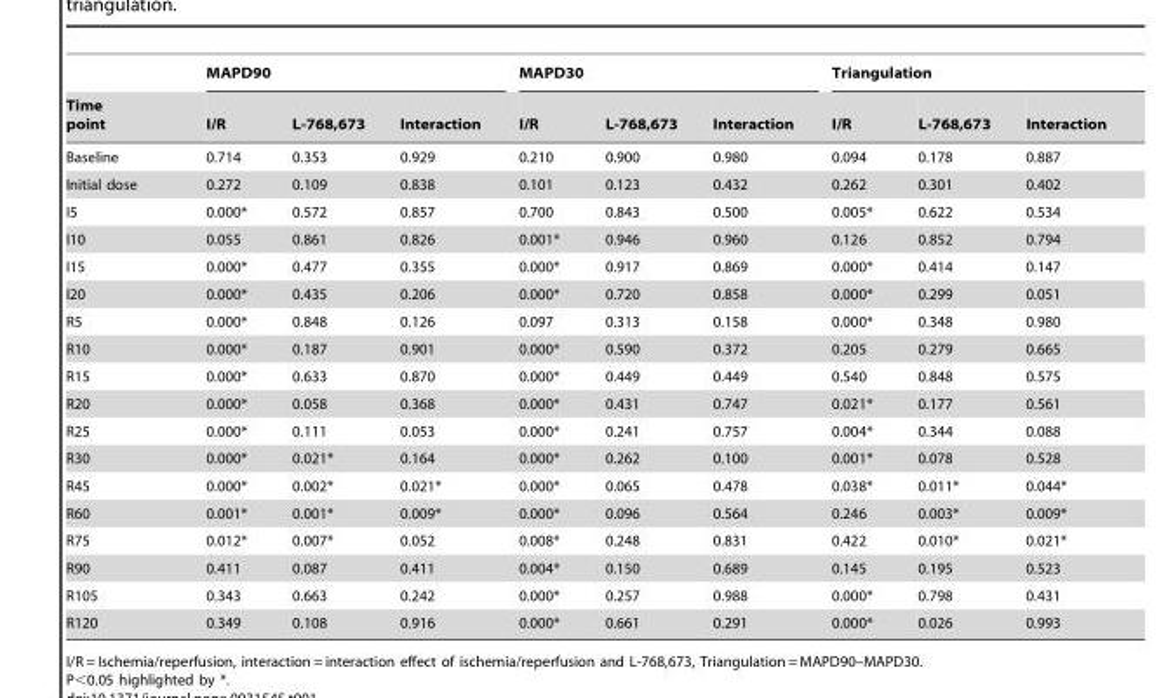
<table><thead><tr><td rowspan="2">Time point</td><td colspan="3">MAPD90</td><td colspan="3">MAPD30</td><td colspan="3">Triangulation</td></tr><tr><td>I/R</td><td>L-768,673</td><td>Interaction</td><td>I/R</td><td>L-768,673</td><td>Interaction</td><td>I/R</td><td>L-768,673</td><td>Interaction</td></tr></thead><tbody><tr><td>Baseline</td><td>0.714</td><td>0.353</td><td>0.929</td><td>0.210</td><td>0.900</td><td>0.980</td><td>0.094</td><td>0.178</td><td>0.887</td></tr><tr><td>Initial dose</td><td>0.272</td><td>0.109</td><td>0.838</td><td>0.101</td><td>0.123</td><td>0.432</td><td>0.262</td><td>0.301</td><td>0.402</td></tr><tr><td>I5</td><td>0.000*</td><td>0.572</td><td>0.857</td><td>0.700</td><td>0.843</td><td>0.500</td><td>0.005*</td><td>0.622</td><td>0.534</td></tr><tr><td>I10</td><td>0.055</td><td>0.861</td><td>0.826</td><td>0.001*</td><td>0.946</td><td>0.960</td><td>0.126</td><td>0.852</td><td>0.794</td></tr><tr><td>I15</td><td>0.000*</td><td>0.477</td><td>0.355</td><td>0.000*</td><td>0.917</td><td>0.869</td><td>0.000*</td><td>0.414</td><td>0.147</td></tr><tr><td>I20</td><td>0.000*</td><td>0.435</td><td>0.206</td><td>0.000*</td><td>0.720</td><td>0.858</td><td>0.000*</td><td>0.299</td><td>0.051</td></tr><tr><td>R5</td><td>0.000*</td><td>0.848</td><td>0.126</td><td>0.097</td><td>0.313</td><td>0.158</td><td>0.000*</td><td>0.348</td><td>0.980</td></tr><tr><td>R10</td><td>0.000*</td><td>0.187</td><td>0.901</td><td>0.000*</td><td>0.590</td><td>0.372</td><td>0.205</td><td>0.279</td><td>0.665</td></tr><tr><td>R15</td><td>0.000*</td><td>0.633</td><td>0.870</td><td>0.000*</td><td>0.449</td><td>0.449</td><td>0.540</td><td>0.848</td><td>0.575</td></tr><tr><td>R20</td><td>0.000*</td><td>0.058</td><td>0.368</td><td>0.000*</td><td>0.431</td><td>0.747</td><td>0.021*</td><td>0.177</td><td>0.561</td></tr><tr><td>R25</td><td>0.000*</td><td>0.111</td><td>0.053</td><td>0.000*</td><td>0.241</td><td>0.757</td><td>0.004*</td><td>0.344</td><td>0.088</td></tr><tr><td>R30</td><td>0.000*</td><td>0.021*</td><td>0.164</td><td>0.000*</td><td>0.262</td><td>0.100</td><td>0.001*</td><td>0.078</td><td>0.528</td></tr><tr><td>R45</td><td>0.000*</td><td>0.002*</td><td>0.021*</td><td>0.000*</td><td>0.065</td><td>0.478</td><td>0.038*</td><td>0.011*</td><td>0.044*</td></tr><tr><td>R60</td><td>0.001*</td><td>0.001*</td><td>0.009*</td><td>0.000*</td><td>0.096</td><td>0.564</td><td>0.246</td><td>0.003*</td><td>0.009*</td></tr><tr><td>R75</td><td>0.012*</td><td>0.007*</td><td>0.052</td><td>0.008*</td><td>0.248</td><td>0.831</td><td>0.422</td><td>0.010*</td><td>0.021*</td></tr><tr><td>R90</td><td>0.411</td><td>0.087</td><td>0.411</td><td>0.004*</td><td>0.150</td><td>0.689</td><td>0.145</td><td>0.195</td><td>0.523</td></tr><tr><td>R105</td><td>0.343</td><td>0.663</td><td>0.242</td><td>0.000*</td><td>0.257</td><td>0.988</td><td>0.000*</td><td>0.798</td><td>0.431</td></tr><tr><td>R120</td><td>0.349</td><td>0.108</td><td>0.916</td><td>0.000*</td><td>0.661</td><td>0.291</td><td>0.000*</td><td>0.026</td><td>0.993</td></tr></tbody></table>